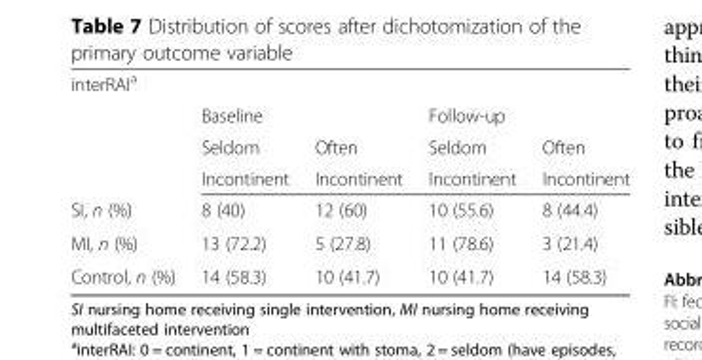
<table><thead><tr><td colspan="5">interRAI<sup>a</sup></td></tr><tr><td rowspan="3"></td><td colspan="2">Baseline</td><td colspan="2">Follow-up</td></tr><tr><td rowspan="2">Seldom Incontinent</td><td rowspan="2">Often Incontinent</td><td rowspan="2">Seldom Incontinent</td><td rowspan="2">Often Incontinent</td></tr><tr></tr></thead><tbody><tr><td>SI, n (%)</td><td>8 (40)</td><td>12 (60)</td><td>10 (55.6)</td><td>8 (44.4)</td></tr><tr><td>MI, n (%)</td><td>13 (72.2)</td><td>5 (27.8)</td><td>11 (78.6)</td><td>3 (21.4)</td></tr><tr><td>Control, n (%)</td><td>14 (58.3)</td><td>10 (41.7)</td><td>10 (41.7)</td><td>14 (58.3)</td></tr></tbody></table>